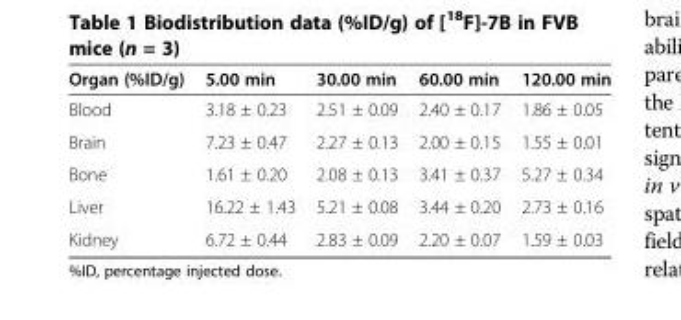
<table><thead><tr><td>Organ (%ID/g)</td><td>5.00 min</td><td>30.00 min</td><td>60.00 min</td><td>120.00 min</td></tr></thead><tbody><tr><td>Blood</td><td>3.18 ± 0.23</td><td>2.51 ± 0.09</td><td>2.40 ± 0.17</td><td>1.86 ± 0.05</td></tr><tr><td>Brain</td><td>7.23 ± 0.47</td><td>2.27 ± 0.13</td><td>2.00 ± 0.15</td><td>1.55 ± 0.01</td></tr><tr><td>Bone</td><td>1.61 ± 0.20</td><td>2.08 ± 0.13</td><td>3.41 ± 0.37</td><td>5.27 ± 0.34</td></tr><tr><td>Liver</td><td>16.22 ± 1.43</td><td>5.21 ± 0.08</td><td>3.44 ± 0.20</td><td>2.73 ± 0.16</td></tr><tr><td>Kidney</td><td>6.72 ± 0.44</td><td>2.83 ± 0.09</td><td>2.20 ± 0.07</td><td>1.59 ± 0.03</td></tr></tbody></table>